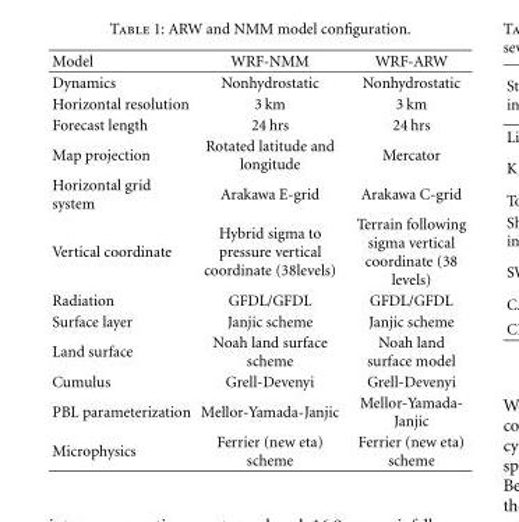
<table><thead><tr><td>Model</td><td>WRF-NMM</td><td>WRF-ARW</td></tr></thead><tbody><tr><td>Dynamics</td><td>Nonhydrostatic</td><td>Nonhydrostatic</td></tr><tr><td>Horizontal resolution</td><td>3 km</td><td>3 km</td></tr><tr><td>Forecast length</td><td>24 hrs</td><td>24 hrs</td></tr><tr><td>Map projection</td><td>Rotated latitude and longitude</td><td>Mercator</td></tr><tr><td>Horizontal grid system</td><td>Arakawa E-grid</td><td>Arakawa C-grid</td></tr><tr><td>Vertical coordinate</td><td>Hybrid sigma to pressure vertical coordinate (38levels)</td><td>Terrain following sigma vertical coordinate (38 levels)</td></tr><tr><td>Radiation</td><td>GFDL/GFDL</td><td>GFDL/GFDL</td></tr><tr><td>Surface layer</td><td>Janjic scheme</td><td>Janjic scheme</td></tr><tr><td>Land surface</td><td>Noah land surface scheme</td><td>Noah land surface model</td></tr><tr><td>Cumulus</td><td>Grell-Devenyi</td><td>Grell-Devenyi</td></tr><tr><td>PBL parameterization</td><td>Mellor-Yamada-Janjic</td><td>Mellor-Yamada- Janjic</td></tr><tr><td>Microphysics</td><td>Ferrier (new eta) scheme</td><td>Ferrier (new eta) scheme</td></tr></tbody></table>